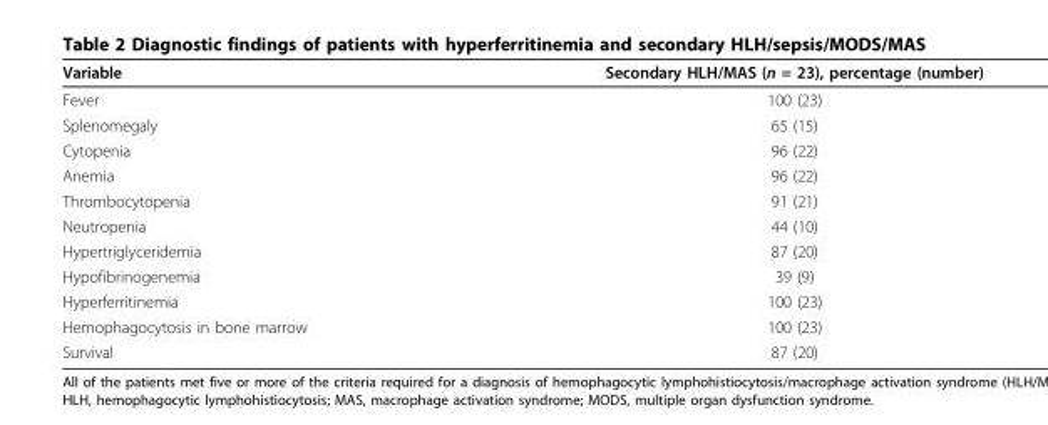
<table><thead><tr><td>Variable</td><td>Secondary HLH/MAS (n = 23), percentage (number)</td></tr></thead><tbody><tr><td>Fever</td><td>100 (23)</td></tr><tr><td>Splenomegaly</td><td>65 (15)</td></tr><tr><td>Cytopenia</td><td>96 (22)</td></tr><tr><td>Anemia</td><td>96 (22)</td></tr><tr><td>Thrombocytopenia</td><td>91 (21)</td></tr><tr><td>Neutropenia</td><td>44 (10)</td></tr><tr><td>Hypertriglyceridemia</td><td>87 (20)</td></tr><tr><td>Hypofibrinogenemia</td><td>39 (9)</td></tr><tr><td>Hyperferritinemia</td><td>100 (23)</td></tr><tr><td>Hemophagocytosis in bone marrow</td><td>100 (23)</td></tr><tr><td>Survival</td><td>87 (20)</td></tr></tbody></table>